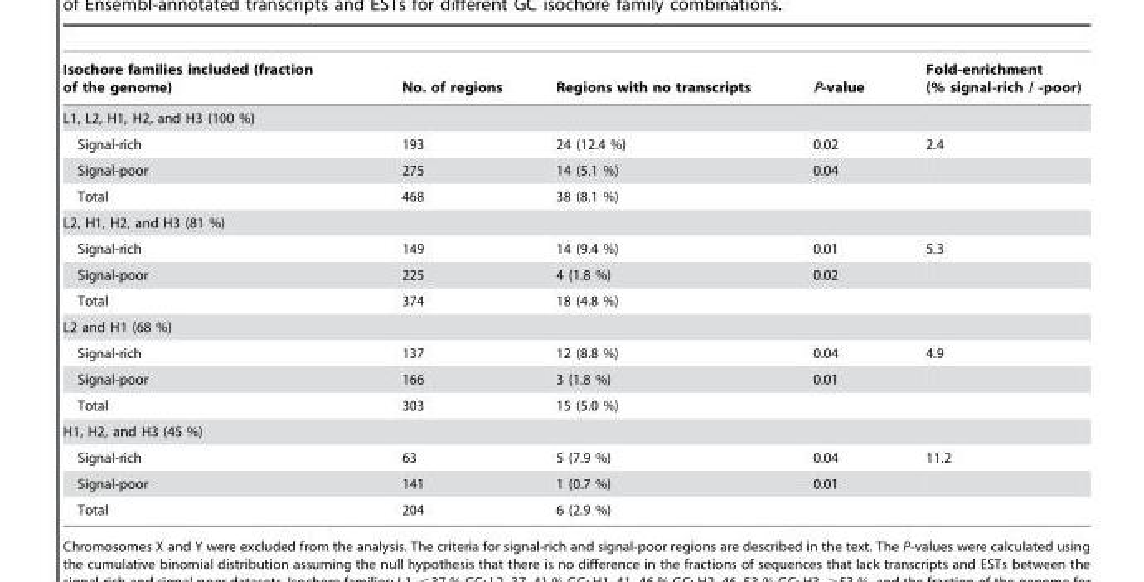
<table><thead><tr><td>Isochore families included (fraction of the genome)</td><td>No. of regions</td><td>Regions with no transcripts</td><td>P-value</td><td>Fold-enrichment (% signal-rich / -poor)</td></tr></thead><tbody><tr><td colspan="5">L1, L2, H1, H2, and H3 (100 %)</td></tr><tr><td>Signal-rich</td><td>193</td><td>24 (12.4 %)</td><td>0.02</td><td>2.4</td></tr><tr><td>Signal-poor</td><td>275</td><td>14 (5.1 %)</td><td>0.04</td><td></td></tr><tr><td>Total</td><td>468</td><td>38 (8.1 %)</td><td></td><td></td></tr><tr><td colspan="5">L2, H1, H2, and H3 (81 %)</td></tr><tr><td>Signal-rich</td><td>149</td><td>14 (9.4 %)</td><td>0.01</td><td>5.3</td></tr><tr><td>Signal-poor</td><td>225</td><td>4 (1.8 %)</td><td>0.02</td><td></td></tr><tr><td>Total</td><td>374</td><td>18 (4.8 %)</td><td></td><td></td></tr><tr><td colspan="5">L2 and H1 (68 %)</td></tr><tr><td>Signal-rich</td><td>137</td><td>12 (8.8 %)</td><td>0.04</td><td>4.9</td></tr><tr><td>Signal-poor</td><td>166</td><td>3 (1.8 %)</td><td>0.01</td><td></td></tr><tr><td>Total</td><td>303</td><td>15 (5.0 %)</td><td></td><td></td></tr><tr><td colspan="5">H1, H2, and H3 (45 %)</td></tr><tr><td>Signal-rich</td><td>63</td><td>5 (7.9 %)</td><td>0.04</td><td>11.2</td></tr><tr><td>Signal-poor</td><td>141</td><td>1 (0.7 %)</td><td>0.01</td><td></td></tr><tr><td>Total</td><td>204</td><td>6 (2.9 %)</td><td></td><td></td></tr></tbody></table>